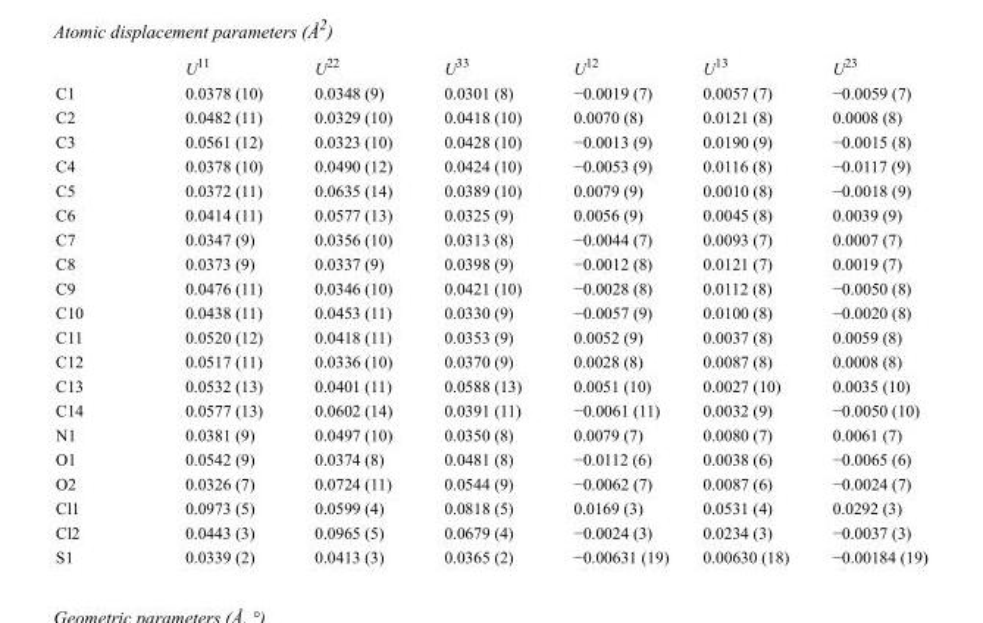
<table><thead><tr><td></td><td>U<sup>11</sup></td><td>U<sup>22</sup></td><td>U<sup>33</sup></td><td>U<sup>12</sup></td><td>U<sup>13</sup></td><td>U<sup>23</sup></td></tr></thead><tbody><tr><td>C1</td><td>0.0378 (10)</td><td>0.0348 (9)</td><td>0.0301 (8)</td><td>−0.0019 (7)</td><td>0.0057 (7)</td><td>−0.0059 (7)</td></tr><tr><td>C2</td><td>0.0482 (11)</td><td>0.0329 (10)</td><td>0.0418 (10)</td><td>0.0070 (8)</td><td>0.0121 (8)</td><td>0.0008 (8)</td></tr><tr><td>C3</td><td>0.0561 (12)</td><td>0.0323 (10)</td><td>0.0428 (10)</td><td>−0.0013 (9)</td><td>0.0190 (9)</td><td>−0.0015 (8)</td></tr><tr><td>C4</td><td>0.0378 (10)</td><td>0.0490 (12)</td><td>0.0424 (10)</td><td>−0.0053 (9)</td><td>0.0116 (8)</td><td>−0.0117 (9)</td></tr><tr><td>C5</td><td>0.0372 (11)</td><td>0.0635 (14)</td><td>0.0389 (10)</td><td>0.0079 (9)</td><td>0.0010 (8)</td><td>−0.0018 (9)</td></tr><tr><td>C6</td><td>0.0414 (11)</td><td>0.0577 (13)</td><td>0.0325 (9)</td><td>0.0056 (9)</td><td>0.0045 (8)</td><td>0.0039 (9)</td></tr><tr><td>C7</td><td>0.0347 (9)</td><td>0.0356 (10)</td><td>0.0313 (8)</td><td>−0.0044 (7)</td><td>0.0093 (7)</td><td>0.0007 (7)</td></tr><tr><td>C8</td><td>0.0373 (9)</td><td>0.0337 (9)</td><td>0.0398 (9)</td><td>−0.0012 (8)</td><td>0.0121 (7)</td><td>0.0019 (7)</td></tr><tr><td>C9</td><td>0.0476 (11)</td><td>0.0346 (10)</td><td>0.0421 (10)</td><td>−0.0028 (8)</td><td>0.0112 (8)</td><td>−0.0050 (8)</td></tr><tr><td>C10</td><td>0.0438 (11)</td><td>0.0453 (11)</td><td>0.0330 (9)</td><td>−0.0057 (9)</td><td>0.0100 (8)</td><td>−0.0020 (8)</td></tr><tr><td>C11</td><td>0.0520 (12)</td><td>0.0418 (11)</td><td>0.0353 (9)</td><td>0.0052 (9)</td><td>0.0037 (8)</td><td>0.0059 (8)</td></tr><tr><td>C12</td><td>0.0517 (11)</td><td>0.0336 (10)</td><td>0.0370 (9)</td><td>0.0028 (8)</td><td>0.0087 (8)</td><td>0.0008 (8)</td></tr><tr><td>C13</td><td>0.0532 (13)</td><td>0.0401 (11)</td><td>0.0588 (13)</td><td>0.0051 (10)</td><td>0.0027 (10)</td><td>0.0035 (10)</td></tr><tr><td>C14</td><td>0.0577 (13)</td><td>0.0602 (14)</td><td>0.0391 (11)</td><td>−0.0061 (11)</td><td>0.0032 (9)</td><td>−0.0050 (10)</td></tr><tr><td>N1</td><td>0.0381 (9)</td><td>0.0497 (10)</td><td>0.0350 (8)</td><td>0.0079 (7)</td><td>0.0080 (7)</td><td>0.0061 (7)</td></tr><tr><td>O1</td><td>0.0542 (9)</td><td>0.0374 (8)</td><td>0.0481 (8)</td><td>−0.0112 (6)</td><td>0.0038 (6)</td><td>−0.0065 (6)</td></tr><tr><td>O2</td><td>0.0326 (7)</td><td>0.0724 (11)</td><td>0.0544 (9)</td><td>−0.0062 (7)</td><td>0.0087 (6)</td><td>−0.0024 (7)</td></tr><tr><td>Cl1</td><td>0.0973 (5)</td><td>0.0599 (4)</td><td>0.0818 (5)</td><td>0.0169 (3)</td><td>0.0531 (4)</td><td>0.0292 (3)</td></tr><tr><td>Cl2</td><td>0.0443 (3)</td><td>0.0965 (5)</td><td>0.0679 (4)</td><td>−0.0024 (3)</td><td>0.0234 (3)</td><td>−0.0037 (3)</td></tr><tr><td>S1</td><td>0.0339 (2)</td><td>0.0413 (3)</td><td>0.0365 (2)</td><td>−0.00631 (19)</td><td>0.00630 (18)</td><td>−0.00184 (19)</td></tr></tbody></table>